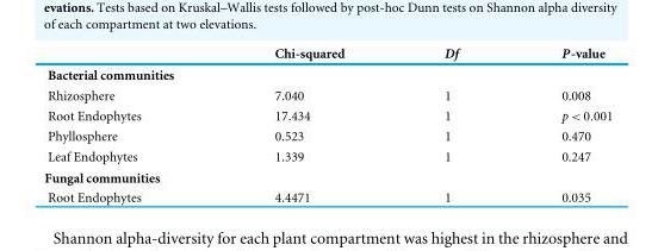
<table><thead><tr><td></td><td>Chi-squared</td><td>Df</td><td>P-value</td></tr></thead><tbody><tr><td colspan="4">Bacterial communities</td></tr><tr><td>Rhizosphere</td><td>7.040</td><td>1</td><td>0.008</td></tr><tr><td>Root Endophytes</td><td>17.434</td><td>1</td><td>p &lt; 0.001</td></tr><tr><td>Phyllosphere</td><td>0.523</td><td>1</td><td>0.470</td></tr><tr><td>Leaf Endophytes</td><td>1.339</td><td>1</td><td>0.247</td></tr><tr><td colspan="4">Fungal communities</td></tr><tr><td>Root Endophytes</td><td>4.4471</td><td>1</td><td>0.035</td></tr></tbody></table>